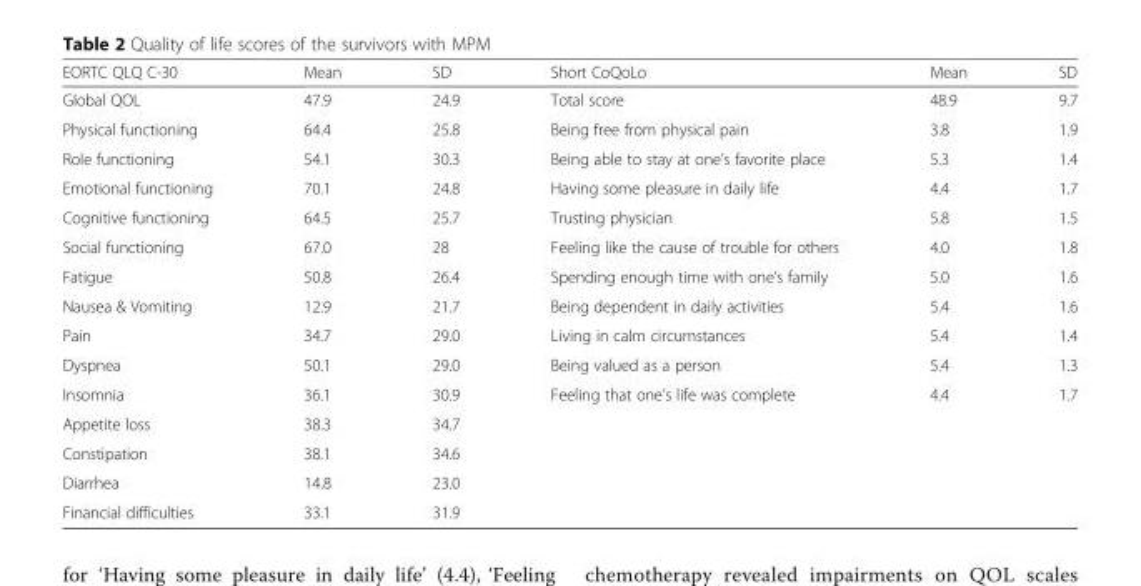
<table><thead><tr><td>EORTC QLQ C-30</td><td>Mean</td><td>SD</td><td>Short CoQoLo</td><td>Mean</td><td>SD</td></tr></thead><tbody><tr><td>Global QOL</td><td>47.9</td><td>24.9</td><td>Total score</td><td>48.9</td><td>9.7</td></tr><tr><td>Physical functioning</td><td>64.4</td><td>25.8</td><td>Being free from physical pain</td><td>3.8</td><td>1.9</td></tr><tr><td>Role functioning</td><td>54.1</td><td>30.3</td><td>Being able to stay at one’s favorite place</td><td>5.3</td><td>1.4</td></tr><tr><td>Emotional functioning</td><td>70.1</td><td>24.8</td><td>Having some pleasure in daily life</td><td>4.4</td><td>1.7</td></tr><tr><td>Cognitive functioning</td><td>64.5</td><td>25.7</td><td>Trusting physician</td><td>5.8</td><td>1.5</td></tr><tr><td>Social functioning</td><td>67.0</td><td>28</td><td>Feeling like the cause of trouble for others</td><td>4.0</td><td>1.8</td></tr><tr><td>Fatigue</td><td>50.8</td><td>26.4</td><td>Spending enough time with one’s family</td><td>5.0</td><td>1.6</td></tr><tr><td>Nausea &amp; Vomiting</td><td>12.9</td><td>21.7</td><td>Being dependent in daily activities</td><td>5.4</td><td>1.6</td></tr><tr><td>Pain</td><td>34.7</td><td>29.0</td><td>Living in calm circumstances</td><td>5.4</td><td>1.4</td></tr><tr><td>Dyspnea</td><td>50.1</td><td>29.0</td><td>Being valued as a person</td><td>5.4</td><td>1.3</td></tr><tr><td>Insomnia</td><td>36.1</td><td>30.9</td><td>Feeling that one’s life was complete</td><td>4.4</td><td>1.7</td></tr><tr><td>Appetite loss</td><td>38.3</td><td>34.7</td><td></td><td></td><td></td></tr><tr><td>Constipation</td><td>38.1</td><td>34.6</td><td></td><td></td><td></td></tr><tr><td>Diarrhea</td><td>14.8</td><td>23.0</td><td></td><td></td><td></td></tr><tr><td>Financial difficulties</td><td>33.1</td><td>31.9</td><td></td><td></td><td></td></tr></tbody></table>